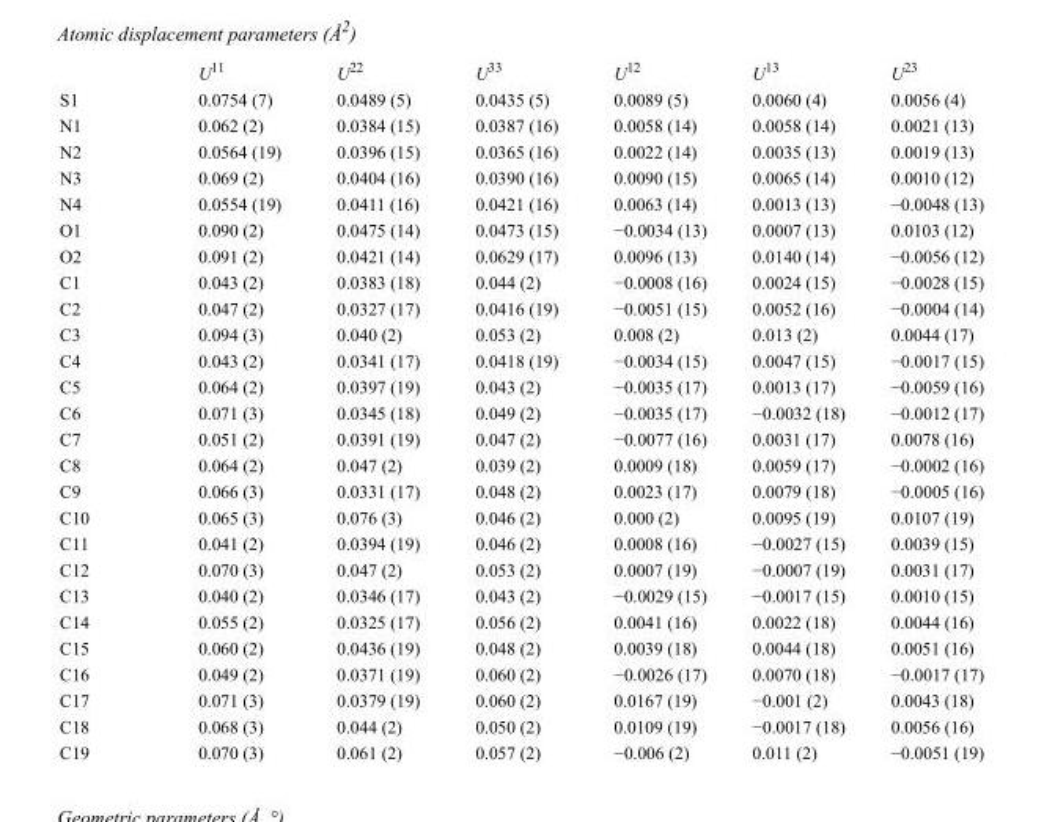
<table><thead><tr><td></td><td>U<sup>11</sup></td><td>U<sup>22</sup></td><td>U<sup>33</sup></td><td>U<sup>12</sup></td><td>U<sup>13</sup></td><td>U<sup>23</sup></td></tr></thead><tbody><tr><td>S1</td><td>0.0754 (7)</td><td>0.0489 (5)</td><td>0.0435 (5)</td><td>0.0089 (5)</td><td>0.0060 (4)</td><td>0.0056 (4)</td></tr><tr><td>N1</td><td>0.062 (2)</td><td>0.0384 (15)</td><td>0.0387 (16)</td><td>0.0058 (14)</td><td>0.0058 (14)</td><td>0.0021 (13)</td></tr><tr><td>N2</td><td>0.0564 (19)</td><td>0.0396 (15)</td><td>0.0365 (16)</td><td>0.0022 (14)</td><td>0.0035 (13)</td><td>0.0019 (13)</td></tr><tr><td>N3</td><td>0.069 (2)</td><td>0.0404 (16)</td><td>0.0390 (16)</td><td>0.0090 (15)</td><td>0.0065 (14)</td><td>0.0010 (12)</td></tr><tr><td>N4</td><td>0.0554 (19)</td><td>0.0411 (16)</td><td>0.0421 (16)</td><td>0.0063 (14)</td><td>0.0013 (13)</td><td>−0.0048 (13)</td></tr><tr><td>O1</td><td>0.090 (2)</td><td>0.0475 (14)</td><td>0.0473 (15)</td><td>−0.0034 (13)</td><td>0.0007 (13)</td><td>0.0103 (12)</td></tr><tr><td>O2</td><td>0.091 (2)</td><td>0.0421 (14)</td><td>0.0629 (17)</td><td>0.0096 (13)</td><td>0.0140 (14)</td><td>−0.0056 (12)</td></tr><tr><td>C1</td><td>0.043 (2)</td><td>0.0383 (18)</td><td>0.044 (2)</td><td>−0.0008 (16)</td><td>0.0024 (15)</td><td>−0.0028 (15)</td></tr><tr><td>C2</td><td>0.047 (2)</td><td>0.0327 (17)</td><td>0.0416 (19)</td><td>−0.0051 (15)</td><td>0.0052 (16)</td><td>−0.0004 (14)</td></tr><tr><td>C3</td><td>0.094 (3)</td><td>0.040 (2)</td><td>0.053 (2)</td><td>0.008 (2)</td><td>0.013 (2)</td><td>0.0044 (17)</td></tr><tr><td>C4</td><td>0.043 (2)</td><td>0.0341 (17)</td><td>0.0418 (19)</td><td>−0.0034 (15)</td><td>0.0047 (15)</td><td>−0.0017 (15)</td></tr><tr><td>C5</td><td>0.064 (2)</td><td>0.0397 (19)</td><td>0.043 (2)</td><td>−0.0035 (17)</td><td>0.0013 (17)</td><td>−0.0059 (16)</td></tr><tr><td>C6</td><td>0.071 (3)</td><td>0.0345 (18)</td><td>0.049 (2)</td><td>−0.0035 (17)</td><td>−0.0032 (18)</td><td>−0.0012 (17)</td></tr><tr><td>C7</td><td>0.051 (2)</td><td>0.0391 (19)</td><td>0.047 (2)</td><td>−0.0077 (16)</td><td>0.0031 (17)</td><td>0.0078 (16)</td></tr><tr><td>C8</td><td>0.064 (2)</td><td>0.047 (2)</td><td>0.039 (2)</td><td>0.0009 (18)</td><td>0.0059 (17)</td><td>−0.0002 (16)</td></tr><tr><td>C9</td><td>0.066 (3)</td><td>0.0331 (17)</td><td>0.048 (2)</td><td>0.0023 (17)</td><td>0.0079 (18)</td><td>−0.0005 (16)</td></tr><tr><td>C10</td><td>0.065 (3)</td><td>0.076 (3)</td><td>0.046 (2)</td><td>0.000 (2)</td><td>0.0095 (19)</td><td>0.0107 (19)</td></tr><tr><td>C11</td><td>0.041 (2)</td><td>0.0394 (19)</td><td>0.046 (2)</td><td>0.0008 (16)</td><td>−0.0027 (15)</td><td>0.0039 (15)</td></tr><tr><td>C12</td><td>0.070 (3)</td><td>0.047 (2)</td><td>0.053 (2)</td><td>0.0007 (19)</td><td>−0.0007 (19)</td><td>0.0031 (17)</td></tr><tr><td>C13</td><td>0.040 (2)</td><td>0.0346 (17)</td><td>0.043 (2)</td><td>−0.0029 (15)</td><td>−0.0017 (15)</td><td>0.0010 (15)</td></tr><tr><td>C14</td><td>0.055 (2)</td><td>0.0325 (17)</td><td>0.056 (2)</td><td>0.0041 (16)</td><td>0.0022 (18)</td><td>0.0044 (16)</td></tr><tr><td>C15</td><td>0.060 (2)</td><td>0.0436 (19)</td><td>0.048 (2)</td><td>0.0039 (18)</td><td>0.0044 (18)</td><td>0.0051 (16)</td></tr><tr><td>C16</td><td>0.049 (2)</td><td>0.0371 (19)</td><td>0.060 (2)</td><td>−0.0026 (17)</td><td>0.0070 (18)</td><td>−0.0017 (17)</td></tr><tr><td>C17</td><td>0.071 (3)</td><td>0.0379 (19)</td><td>0.060 (2)</td><td>0.0167 (19)</td><td>−0.001 (2)</td><td>0.0043 (18)</td></tr><tr><td>C18</td><td>0.068 (3)</td><td>0.044 (2)</td><td>0.050 (2)</td><td>0.0109 (19)</td><td>−0.0017 (18)</td><td>0.0056 (16)</td></tr><tr><td>C19</td><td>0.070 (3)</td><td>0.061 (2)</td><td>0.057 (2)</td><td>−0.006 (2)</td><td>0.011 (2)</td><td>−0.0051 (19)</td></tr></tbody></table>